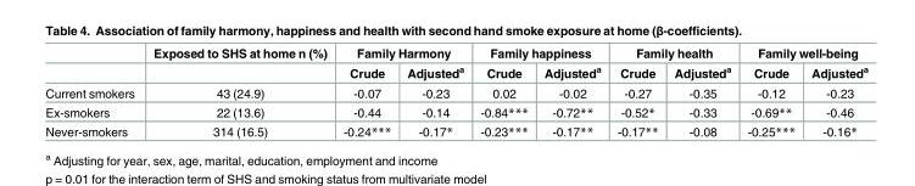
<table><thead><tr><td rowspan="2"></td><td rowspan="2">Exposed to SHS at home n (%)</td><td colspan="2">Family Harmony</td><td colspan="2">Family happiness</td><td colspan="2">Family health</td><td colspan="2">Family well-being</td></tr><tr><td>Crude</td><td>Adjusted<sup>a</sup></td><td>Crude</td><td>Adjusted<sup>a</sup></td><td>Crude</td><td>Adjusted<sup>a</sup></td><td>Crude</td><td>Adjusted<sup>a</sup></td></tr></thead><tbody><tr><td>Current smokers</td><td>43 (24.9)</td><td>-0.07</td><td>-0.23</td><td>0.02</td><td>-0.02</td><td>-0.27</td><td>-0.35</td><td>-0.12</td><td>-0.23</td></tr><tr><td>Ex-smokers</td><td>22 (13.6)</td><td>-0.44</td><td>-0.14</td><td>-0.84***</td><td>-0.72**</td><td>-0.52*</td><td>-0.33</td><td>-0.69**</td><td>-0.46</td></tr><tr><td>Never-smokers</td><td>314 (16.5)</td><td>-0.24***</td><td>-0.17*</td><td>-0.23***</td><td>-0.17**</td><td>-0.17**</td><td>-0.08</td><td>-0.25***</td><td>-0.16*</td></tr></tbody></table>